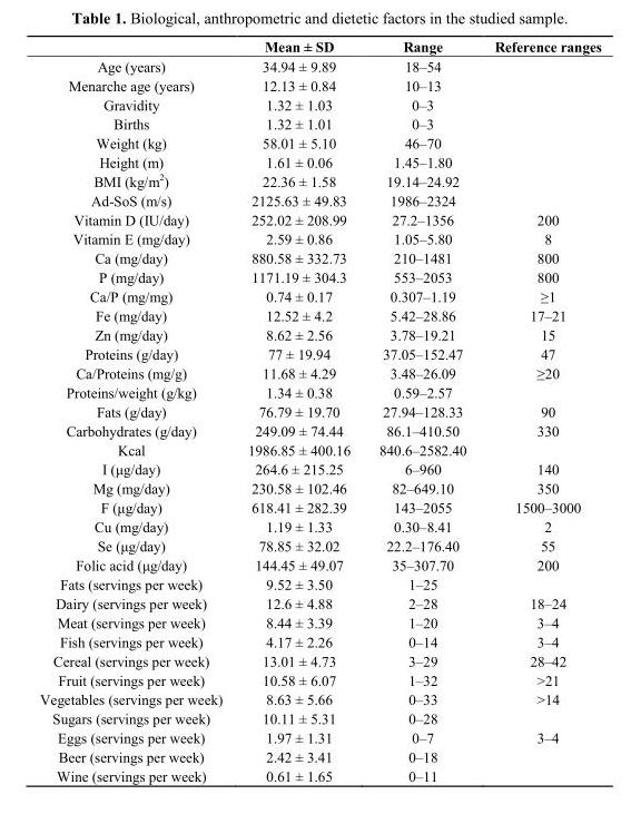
<table><thead><tr><td></td><td>Mean ± SD</td><td>Range</td><td>Reference ranges</td></tr></thead><tbody><tr><td>Age (years)</td><td>34.94 ± 9.89</td><td>18–54</td><td></td></tr><tr><td>Menarche age (years)</td><td>12.13 ± 0.84</td><td>10–13</td><td></td></tr><tr><td>Gravidity</td><td>1.32 ± 1.03</td><td>0–3</td><td></td></tr><tr><td>Births</td><td>1.32 ± 1.01</td><td>0–3</td><td></td></tr><tr><td>Weight (kg)</td><td>58.01 ± 5.10</td><td>46–70</td><td></td></tr><tr><td>Height (m)</td><td>1.61 ± 0.06</td><td>1.45–1.80</td><td></td></tr><tr><td>BMI (kg/m<sup>2</sup>)</td><td>22.36 ± 1.58</td><td>19.14–24.92</td><td></td></tr><tr><td>Ad-SoS (m/s)</td><td>2125.63 ± 49.83</td><td>1986–2324</td><td></td></tr><tr><td>Vitamin D (IU/day)</td><td>252.02 ± 208.99</td><td>27.2–1356</td><td>200</td></tr><tr><td>Vitamin E (mg/day)</td><td>2.59 ± 0.86</td><td>1.05–5.80</td><td>8</td></tr><tr><td>Ca (mg/day)</td><td>880.58 ± 332.73</td><td>210–1481</td><td>800</td></tr><tr><td>P (mg/day)</td><td>1171.19 ± 304.3</td><td>553–2053</td><td>800</td></tr><tr><td>Ca/P (mg/mg)</td><td>0.74 ± 0.17</td><td>0.307–1.19</td><td>≥1</td></tr><tr><td>Fe (mg/day)</td><td>12.52 ± 4.2</td><td>5.42–28.86</td><td>17–21</td></tr><tr><td>Zn (mg/day)</td><td>8.62 ± 2.56</td><td>3.78–19.21</td><td>15</td></tr><tr><td>Proteins (g/day)</td><td>77 ± 19.94</td><td>37.05–152.47</td><td>47</td></tr><tr><td>Ca/Proteins (mg/g)</td><td>11.68 ± 4.29</td><td>3.48–26.09</td><td>≥20</td></tr><tr><td>Proteins/weight (g/kg)</td><td>1.34 ± 0.38</td><td>0.59–2.57</td><td></td></tr><tr><td>Fats (g/day)</td><td>76.79 ± 19.70</td><td>27.94–128.33</td><td>90</td></tr><tr><td>Carbohydrates (g/day)</td><td>249.09 ± 74.44</td><td>86.1–410.50</td><td>330</td></tr><tr><td>Kcal</td><td>1986.85 ± 400.16</td><td>840.6–2582.40</td><td></td></tr><tr><td>I (μg/day)</td><td>264.6 ± 215.25</td><td>6–960</td><td>140</td></tr><tr><td>Mg (mg/day)</td><td>230.58 ± 102.46</td><td>82–649.10</td><td>350</td></tr><tr><td>F (μg/day)</td><td>618.41 ± 282.39</td><td>143–2055</td><td>1500–3000</td></tr><tr><td>Cu (mg/day)</td><td>1.19 ± 1.33</td><td>0.30–8.41</td><td>2</td></tr><tr><td>Se (μg/day)</td><td>78.85 ± 32.02</td><td>22.2–176.40</td><td>55</td></tr><tr><td>Folic acid (μg/day)</td><td>144.45 ± 49.07</td><td>35–307.70</td><td>200</td></tr><tr><td>Fats (servings per week)</td><td>9.52 ± 3.50</td><td>1–25</td><td></td></tr><tr><td>Dairy (servings per week)</td><td>12.6 ± 4.88</td><td>2–28</td><td>18–24</td></tr><tr><td>Meat (servings per week)</td><td>8.44 ± 3.39</td><td>1–20</td><td>3–4</td></tr><tr><td>Fish (servings per week)</td><td>4.17 ± 2.26</td><td>0–14</td><td>3–4</td></tr><tr><td>Cereal (servings per week)</td><td>13.01 ± 4.73</td><td>3–29</td><td>28–42</td></tr><tr><td>Fruit (servings per week)</td><td>10.58 ± 6.07</td><td>1–32</td><td>&gt;21</td></tr><tr><td>Vegetables (servings per week)</td><td>8.63 ± 5.66</td><td>0–33</td><td>&gt;14</td></tr><tr><td>Sugars (servings per week)</td><td>10.11 ± 5.31</td><td>0–28</td><td></td></tr><tr><td>Eggs (servings per week)</td><td>1.97 ± 1.31</td><td>0–7</td><td>3–4</td></tr><tr><td>Beer (servings per week)</td><td>2.42 ± 3.41</td><td>0–18</td><td></td></tr><tr><td>Wine (servings per week)</td><td>0.61 ± 1.65</td><td>0–11</td><td></td></tr></tbody></table>